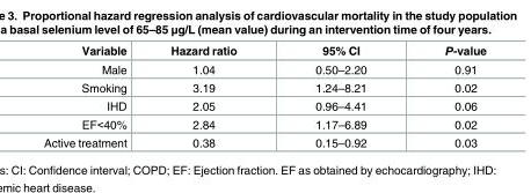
<table><thead><tr><td>Variable</td><td>Hazard ratio</td><td>95% CI</td><td>P-value</td></tr></thead><tbody><tr><td>Male</td><td>1.04</td><td>0.50–2.20</td><td>0.91</td></tr><tr><td>Smoking</td><td>3.19</td><td>1.24–8.21</td><td>0.02</td></tr><tr><td>IHD</td><td>2.05</td><td>0.96–4.41</td><td>0.06</td></tr><tr><td>EF&lt;40%</td><td>2.84</td><td>1.17–6.89</td><td>0.02</td></tr><tr><td>Active treatment</td><td>0.38</td><td>0.15–0.92</td><td>0.03</td></tr></tbody></table>